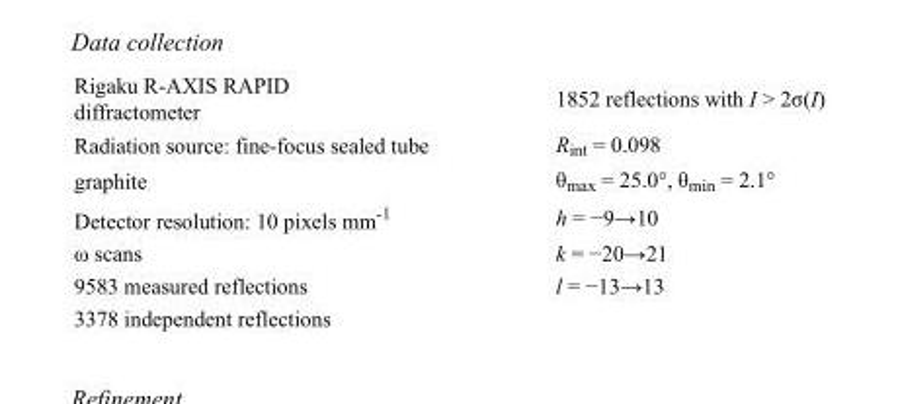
<table><tbody><tr><td>Rigaku R-AXIS RAPID diffractometer</td><td>1852 reflections with I &gt; 2σ(I)</td></tr><tr><td>Radiation source: fine-focus sealed tube</td><td>R<sub>int</sub> = 0.098</td></tr><tr><td>graphite</td><td>θ<sub>max</sub> = 25.0°, θ<sub>min</sub> = 2.1°</td></tr><tr><td>Detector resolution: 10 pixels mm<sup>-1</sup></td><td>h = −9→10</td></tr><tr><td>ω scans</td><td>k = −20→21</td></tr><tr><td>9583 measured reflections</td><td>l = −13→13</td></tr><tr><td>3378 independent reflections</td><td></td></tr></tbody></table>